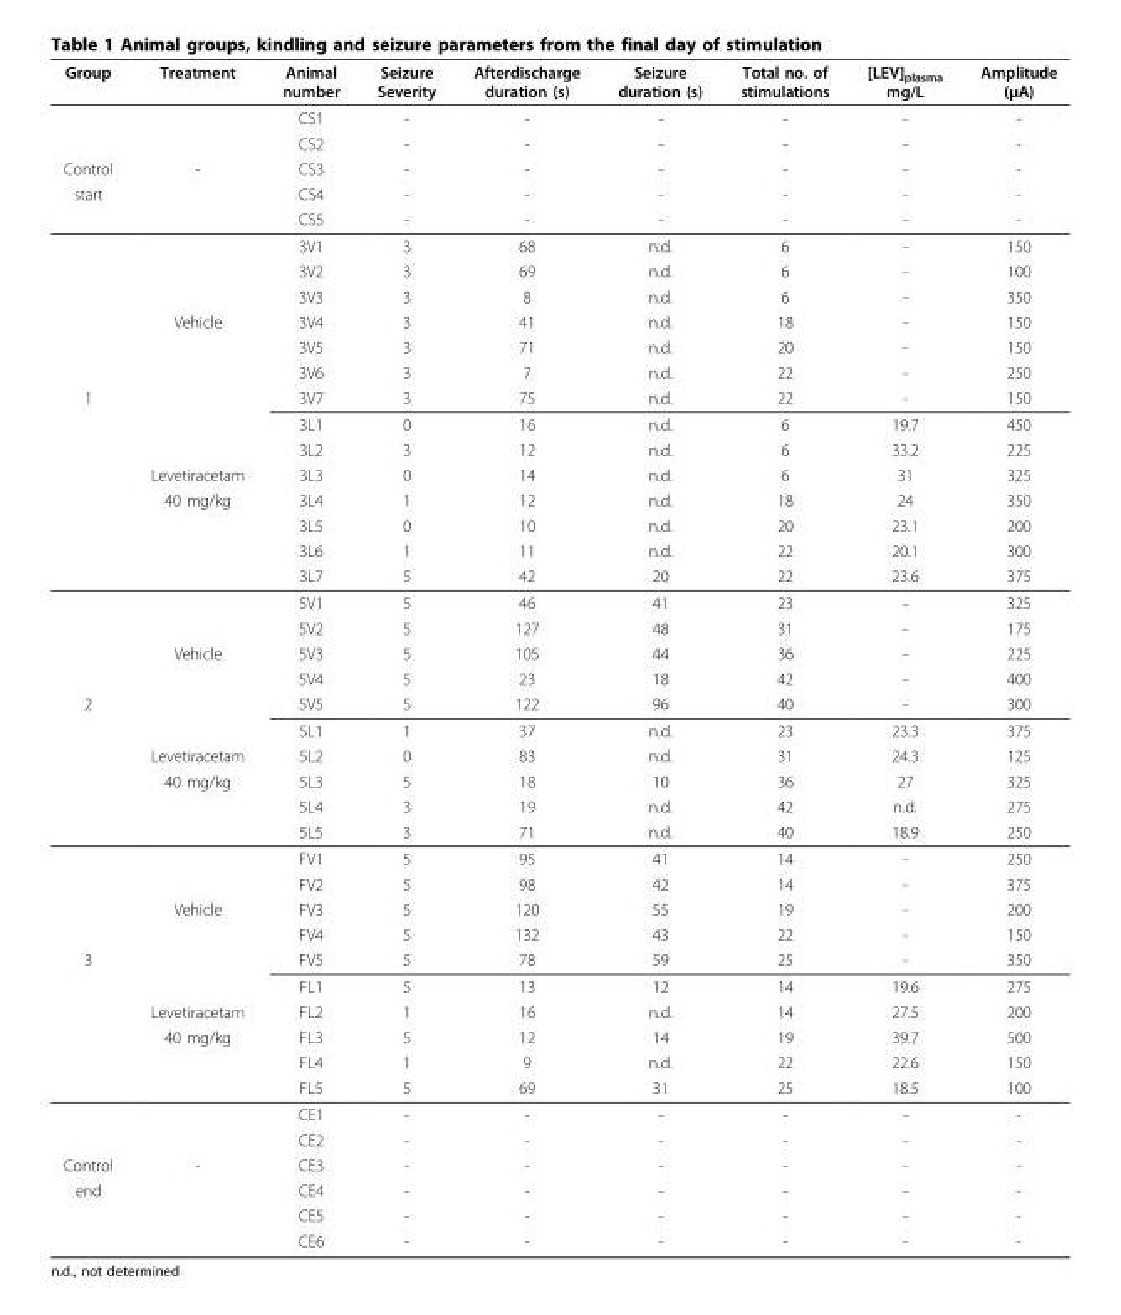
<table><thead><tr><td>Group</td><td>Treatment</td><td>Animal number</td><td>Seizure Severity</td><td>Afterdischarge duration (s)</td><td>Seizure duration (s)</td><td>Total no. of stimulations</td><td>[LEV]<sub>plasma</sub> mg/L</td><td>Amplitude (μA)</td></tr></thead><tbody><tr><td></td><td></td><td>CS1</td><td>-</td><td>-</td><td>-</td><td>-</td><td>-</td><td>-</td></tr><tr><td></td><td></td><td>CS2</td><td>-</td><td>-</td><td>-</td><td>-</td><td>-</td><td>-</td></tr><tr><td>Control</td><td>-</td><td>CS3</td><td>-</td><td>-</td><td>-</td><td>-</td><td>-</td><td>-</td></tr><tr><td rowspan="8">start</td><td></td><td>CS4</td><td>-</td><td>-</td><td>-</td><td>-</td><td>-</td><td>-</td></tr><tr><td></td><td>CS5</td><td>-</td><td>-</td><td>-</td><td>-</td><td>-</td><td>-</td></tr><tr><td></td><td>3V1</td><td>3</td><td>68</td><td>n.d.</td><td>6</td><td>-</td><td>150</td></tr><tr><td></td><td>3V2</td><td>3</td><td>69</td><td>n.d.</td><td>6</td><td>-</td><td>100</td></tr><tr><td></td><td>3V3</td><td>3</td><td>8</td><td>n.d.</td><td>6</td><td>-</td><td>350</td></tr><tr><td>Vehicle</td><td>3V4</td><td>3</td><td>41</td><td>n.d.</td><td>18</td><td>-</td><td>150</td></tr><tr><td></td><td>3V5</td><td>3</td><td>71</td><td>n.d.</td><td>20</td><td>-</td><td>150</td></tr><tr><td></td><td>3V6</td><td>3</td><td>7</td><td>n.d.</td><td>22</td><td>-</td><td>250</td></tr><tr><td rowspan="12">1</td><td></td><td>3V7</td><td>3</td><td>75</td><td>n.d.</td><td>22</td><td>-</td><td>150</td></tr><tr><td></td><td>3L1</td><td>0</td><td>16</td><td>n.d.</td><td>6</td><td>19.7</td><td>450</td></tr><tr><td></td><td>3L2</td><td>3</td><td>12</td><td>n.d.</td><td>6</td><td>33.2</td><td>225</td></tr><tr><td>Levetiracetam</td><td>3L3</td><td>0</td><td>14</td><td>n.d.</td><td>6</td><td>31</td><td>325</td></tr><tr><td>40 mg/kg</td><td>3L4</td><td>1</td><td>12</td><td>n.d.</td><td>18</td><td>24</td><td>350</td></tr><tr><td></td><td>3L5</td><td>0</td><td>10</td><td>n.d.</td><td>20</td><td>23.1</td><td>200</td></tr><tr><td></td><td>3L6</td><td>1</td><td>11</td><td>n.d.</td><td>22</td><td>20.1</td><td>300</td></tr><tr><td></td><td>3L7</td><td>5</td><td>42</td><td>20</td><td>22</td><td>23.6</td><td>375</td></tr><tr><td></td><td>5V1</td><td>5</td><td>46</td><td>41</td><td>23</td><td>-</td><td>325</td></tr><tr><td></td><td>5V2</td><td>5</td><td>127</td><td>48</td><td>31</td><td>-</td><td>175</td></tr><tr><td>Vehicle</td><td>5V3</td><td>5</td><td>105</td><td>44</td><td>36</td><td>-</td><td>225</td></tr><tr><td></td><td>5V4</td><td>5</td><td>23</td><td>18</td><td>42</td><td>-</td><td>400</td></tr><tr><td rowspan="10">2</td><td></td><td>5V5</td><td>5</td><td>122</td><td>96</td><td>40</td><td>-</td><td>300</td></tr><tr><td></td><td>5L1</td><td>1</td><td>37</td><td>n.d.</td><td>23</td><td>23.3</td><td>375</td></tr><tr><td>Levetiracetam</td><td>5L2</td><td>0</td><td>83</td><td>n.d.</td><td>31</td><td>24.3</td><td>125</td></tr><tr><td>40 mg/kg</td><td>5L3</td><td>5</td><td>18</td><td>10</td><td>36</td><td>27</td><td>325</td></tr><tr><td></td><td>5L4</td><td>3</td><td>19</td><td>n.d.</td><td>42</td><td>n.d.</td><td>275</td></tr><tr><td></td><td>5L5</td><td>3</td><td>71</td><td>n.d.</td><td>40</td><td>18.9</td><td>250</td></tr><tr><td></td><td>FV1</td><td>5</td><td>95</td><td>41</td><td>14</td><td>-</td><td>250</td></tr><tr><td></td><td>FV2</td><td>5</td><td>98</td><td>42</td><td>14</td><td>-</td><td>375</td></tr><tr><td>Vehicle</td><td>FV3</td><td>5</td><td>120</td><td>55</td><td>19</td><td>-</td><td>200</td></tr><tr><td></td><td>FV4</td><td>5</td><td>132</td><td>43</td><td>22</td><td>-</td><td>150</td></tr><tr><td rowspan="8">3</td><td></td><td>FV5</td><td>5</td><td>78</td><td>59</td><td>25</td><td>-</td><td>350</td></tr><tr><td></td><td>FL1</td><td>5</td><td>13</td><td>12</td><td>14</td><td>19.6</td><td>275</td></tr><tr><td>Levetiracetam</td><td>FL2</td><td>1</td><td>16</td><td>n.d.</td><td>14</td><td>27.5</td><td>200</td></tr><tr><td>40 mg/kg</td><td>FL3</td><td>5</td><td>12</td><td>14</td><td>19</td><td>39.7</td><td>500</td></tr><tr><td></td><td>FL4</td><td>1</td><td>9</td><td>n.d.</td><td>22</td><td>22.6</td><td>150</td></tr><tr><td></td><td>FL5</td><td>5</td><td>69</td><td>31</td><td>25</td><td>18.5</td><td>100</td></tr><tr><td></td><td>CE1</td><td>-</td><td>-</td><td>-</td><td>-</td><td>-</td><td>-</td></tr><tr><td></td><td>CE2</td><td>-</td><td>-</td><td>-</td><td>-</td><td>-</td><td>-</td></tr><tr><td>Control</td><td>-</td><td>CE3</td><td>-</td><td>-</td><td>-</td><td>-</td><td>-</td><td>-</td></tr><tr><td rowspan="3">end</td><td></td><td>CE4</td><td>-</td><td>-</td><td>-</td><td>-</td><td>-</td><td>-</td></tr><tr><td></td><td>CE5</td><td>-</td><td>-</td><td>-</td><td>-</td><td>-</td><td>-</td></tr><tr><td></td><td>CE6</td><td>-</td><td>-</td><td>-</td><td>-</td><td>-</td><td>-</td></tr></tbody></table>